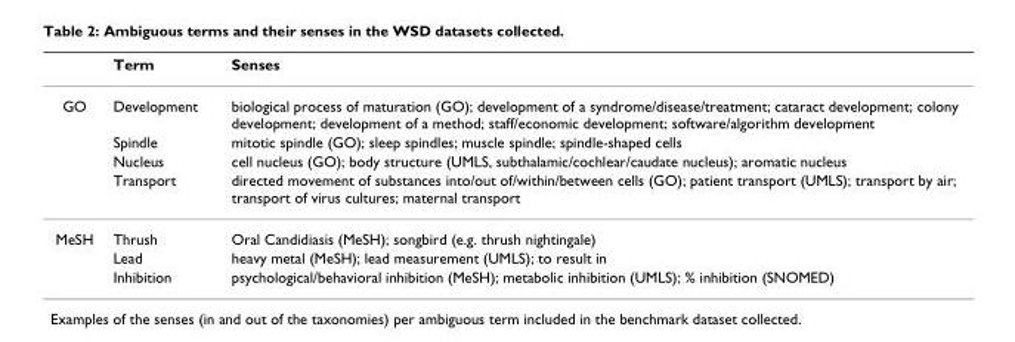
<table><thead><tr><td></td><td>Term</td><td>Senses</td></tr></thead><tbody><tr><td rowspan="4">GO</td><td>Development</td><td>biological process of maturation (GO); development of a syndrome/disease/treatment; cataract development; colony development; development of a method; staff/economic development; software/algorithm development</td></tr><tr><td>Spindle</td><td>mitotic spindle (GO); sleep spindles; muscle spindle; spindle-shaped cells</td></tr><tr><td>Nucleus</td><td>cell nucleus (GO); body structure (UMLS, subthalamic/cochlear/caudate nucleus); aromatic nucleus</td></tr><tr><td>Transport</td><td>directed movement of substances into/out of/within/between cells (GO); patient transport (UMLS); transport by air; transport of virus cultures; maternal transport</td></tr><tr><td rowspan="3">MeSH</td><td>Thrush</td><td>Oral Candidiasis (MeSH); songbird (e.g. thrush nightingale)</td></tr><tr><td>Lead</td><td>heavy metal (MeSH); lead measurement (UMLS); to result in</td></tr><tr><td>Inhibition</td><td>psychological/behavioral inhibition (MeSH); metabolic inhibition (UMLS); % inhibition (SNOMED)</td></tr></tbody></table>